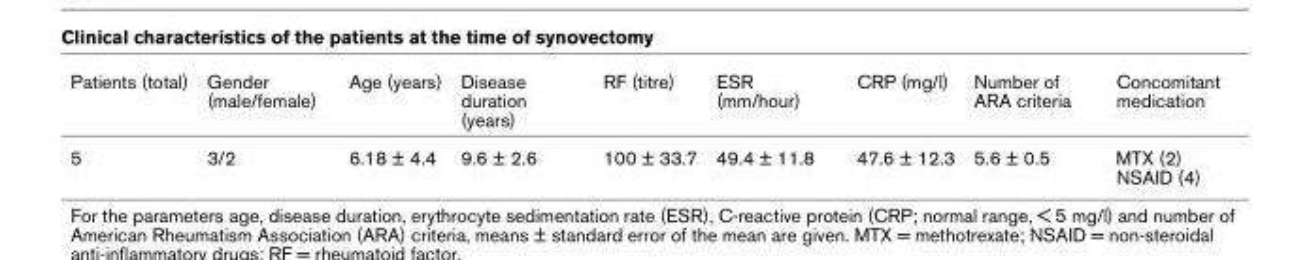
<table><thead><tr><td>Patients (total)</td><td>Gender (male/female)</td><td>Age (years)</td><td>Disease duration (years)</td><td>RF (titre)</td><td>ESR (mm/hour)</td><td>CRP (mg/l)</td><td>Number of ARA criteria</td><td>Concomitant medication</td></tr></thead><tbody><tr><td>5</td><td>3/2</td><td>6.18 ± 4.4</td><td>9.6 ± 2.6</td><td>100 ± 33.7</td><td>49.4 ± 11.8</td><td>47.6 ± 12.3</td><td>5.6 ± 0.5</td><td>MTX (2) NSAID (4)</td></tr></tbody></table>